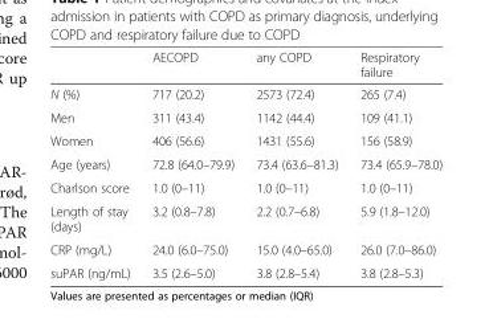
<table><thead><tr><td></td><td>AECOPD</td><td>any COPD</td><td>Respiratory failure</td></tr></thead><tbody><tr><td>N (%)</td><td>717 (20.2)</td><td>2573 (72.4)</td><td>265 (7.4)</td></tr><tr><td>Men</td><td>311 (43.4)</td><td>1142 (44.4)</td><td>109 (41.1)</td></tr><tr><td>Women</td><td>406 (56.6)</td><td>1431 (55.6)</td><td>156 (58.9)</td></tr><tr><td>Age (years)</td><td>72.8 (64.0–79.9)</td><td>73.4 (63.6–81.3)</td><td>73.4 (65.9–78.0)</td></tr><tr><td>Charlson score</td><td>1.0 (0–11)</td><td>1.0 (0–11)</td><td>1.0 (0–11)</td></tr><tr><td>Length of stay (days)</td><td>3.2 (0.8–7.8)</td><td>2.2 (0.7–6.8)</td><td>5.9 (1.8–12.0)</td></tr><tr><td>CRP (mg/L)</td><td>24.0 (6.0–75.0)</td><td>15.0 (4.0–65.0)</td><td>26.0 (7.0–86.0)</td></tr><tr><td>suPAR (ng/mL)</td><td>3.5 (2.6–5.0)</td><td>3.8 (2.8–5.4)</td><td>3.8 (2.8–5.3)</td></tr></tbody></table>